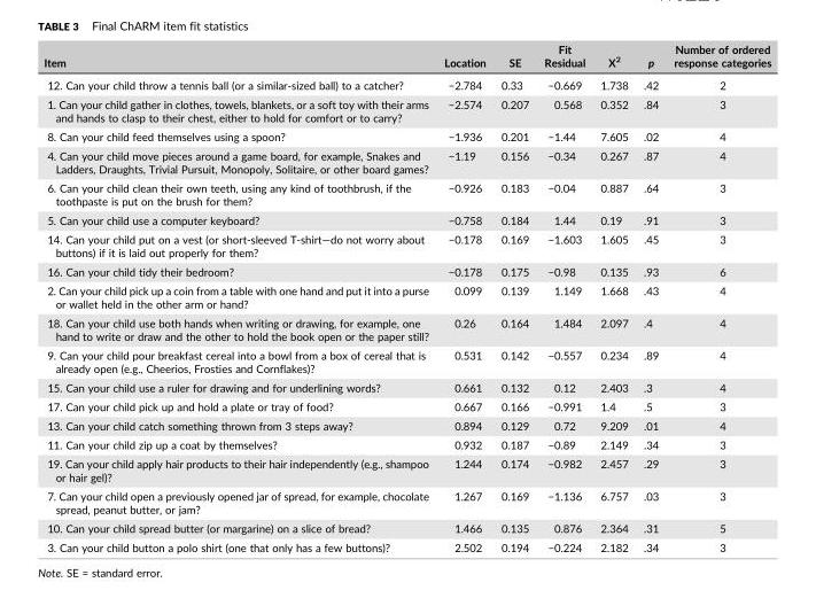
<table><thead><tr><td>Item</td><td>Location</td><td>SE</td><td>Fit Residual</td><td>Χ<sup>2</sup></td><td>p</td><td>Number of ordered response categories</td></tr></thead><tbody><tr><td>12. Can your child throw a tennis ball (or a similar‐sized ball) to a catcher?</td><td>−2.784</td><td>0.33</td><td>−0.669</td><td>1.738</td><td>.42</td><td>2</td></tr><tr><td>1. Can your child gather in clothes, towels, blankets, or a soft toy with their arms and hands to clasp to their chest, either to hold for comfort or to carry?</td><td>−2.574</td><td>0.207</td><td>0.568</td><td>0.352</td><td>.84</td><td>3</td></tr><tr><td>8. Can your child feed themselves using a spoon?</td><td>−1.936</td><td>0.201</td><td>−1.44</td><td>7.605</td><td>.02</td><td>4</td></tr><tr><td>4. Can your child move pieces around a game board, for example, Snakes and Ladders, Draughts, Trivial Pursuit, Monopoly, Solitaire, or other board games?</td><td>−1.19</td><td>0.156</td><td>−0.34</td><td>0.267</td><td>.87</td><td>4</td></tr><tr><td>6. Can your child clean their own teeth, using any kind of toothbrush, if the toothpaste is put on the brush for them?</td><td>−0.926</td><td>0.183</td><td>−0.04</td><td>0.887</td><td>.64</td><td>3</td></tr><tr><td>5. Can your child use a computer keyboard?</td><td>−0.758</td><td>0.184</td><td>1.44</td><td>0.19</td><td>.91</td><td>3</td></tr><tr><td>14. Can your child put on a vest (or short‐sleeved T‐shirt—do not worry about buttons) if it is laid out properly for them?</td><td>−0.178</td><td>0.169</td><td>−1.603</td><td>1.605</td><td>.45</td><td>3</td></tr><tr><td>16. Can your child tidy their bedroom?</td><td>−0.178</td><td>0.175</td><td>−0.98</td><td>0.135</td><td>.93</td><td>6</td></tr><tr><td>2. Can your child pick up a coin from a table with one hand and put it into a purse or wallet held in the other arm or hand?</td><td>0.099</td><td>0.139</td><td>1.149</td><td>1.668</td><td>.43</td><td>4</td></tr><tr><td>18. Can your child use both hands when writing or drawing, for example, one hand to write or draw and the other to hold the book open or the paper still?</td><td>0.26</td><td>0.164</td><td>1.484</td><td>2.097</td><td>.4</td><td>4</td></tr><tr><td>9. Can your child pour breakfast cereal into a bowl from a box of cereal that is already open (e.g., Cheerios, Frosties and Cornflakes)?</td><td>0.531</td><td>0.142</td><td>−0.557</td><td>0.234</td><td>.89</td><td>4</td></tr><tr><td>15. Can your child use a ruler for drawing and for underlining words?</td><td>0.661</td><td>0.132</td><td>0.12</td><td>2.403</td><td>.3</td><td>4</td></tr><tr><td>17. Can your child pick up and hold a plate or tray of food?</td><td>0.667</td><td>0.166</td><td>−0.991</td><td>1.4</td><td>.5</td><td>3</td></tr><tr><td>13. Can your child catch something thrown from 3 steps away?</td><td>0.894</td><td>0.129</td><td>0.72</td><td>9.209</td><td>.01</td><td>4</td></tr><tr><td>11. Can your child zip up a coat by themselves?</td><td>0.932</td><td>0.187</td><td>−0.89</td><td>2.149</td><td>.34</td><td>3</td></tr><tr><td>19. Can your child apply hair products to their hair independently (e.g., shampoo or hair gel)?</td><td>1.244</td><td>0.174</td><td>−0.982</td><td>2.457</td><td>.29</td><td>3</td></tr><tr><td>7. Can your child open a previously opened jar of spread, for example, chocolate spread, peanut butter, or jam?</td><td>1.267</td><td>0.169</td><td>−1.136</td><td>6.757</td><td>.03</td><td>3</td></tr><tr><td>10. Can your child spread butter (or margarine) on a slice of bread?</td><td>1.466</td><td>0.135</td><td>0.876</td><td>2.364</td><td>.31</td><td>5</td></tr><tr><td>3. Can your child button a polo shirt (one that only has a few buttons)?</td><td>2.502</td><td>0.194</td><td>−0.224</td><td>2.182</td><td>.34</td><td>3</td></tr></tbody></table>